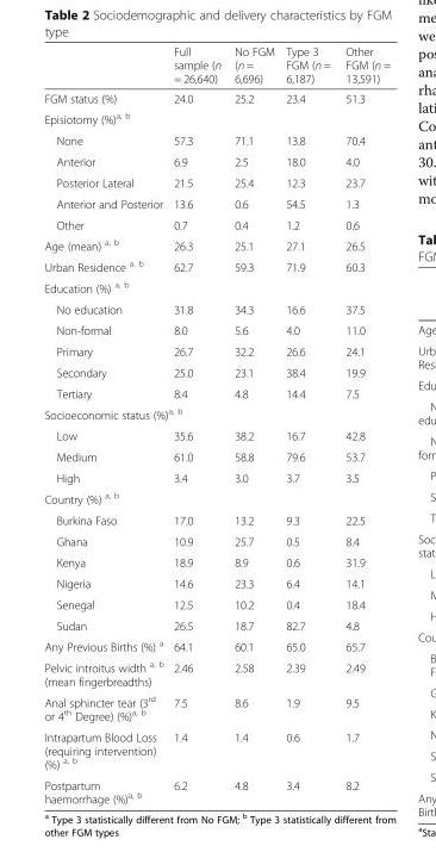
<table><thead><tr><td></td><td>Full sample (n = 26,640)</td><td>No FGM (n = 6,696)</td><td>Type 3 FGM (n = 6,187)</td><td>Other FGM (n = 13,591)</td></tr></thead><tbody><tr><td>FGM status (%)</td><td>24.0</td><td>25.2</td><td>23.4</td><td>51.3</td></tr><tr><td colspan="5">Episiotomy (%)<sup>a, b</sup></td></tr><tr><td>None</td><td>57.3</td><td>71.1</td><td>13.8</td><td>70.4</td></tr><tr><td>Anterior</td><td>6.9</td><td>2.5</td><td>18.0</td><td>4.0</td></tr><tr><td>Posterior Lateral</td><td>21.5</td><td>25.4</td><td>12.3</td><td>23.7</td></tr><tr><td>Anterior and Posterior</td><td>13.6</td><td>0.6</td><td>54.5</td><td>1.3</td></tr><tr><td>Other</td><td>0.7</td><td>0.4</td><td>1.2</td><td>0.6</td></tr><tr><td>Age (mean) <sup>a, b</sup></td><td>26.3</td><td>25.1</td><td>27.1</td><td>26.5</td></tr><tr><td>Urban Residence <sup>a, b</sup></td><td>62.7</td><td>59.3</td><td>71.9</td><td>60.3</td></tr><tr><td colspan="5">Education (%) <sup>a, b</sup></td></tr><tr><td>No education</td><td>31.8</td><td>34.3</td><td>16.6</td><td>37.5</td></tr><tr><td>Non-formal</td><td>8.0</td><td>5.6</td><td>4.0</td><td>11.0</td></tr><tr><td>Primary</td><td>26.7</td><td>32.2</td><td>26.6</td><td>24.1</td></tr><tr><td>Secondary</td><td>25.0</td><td>23.1</td><td>38.4</td><td>19.9</td></tr><tr><td>Tertiary</td><td>8.4</td><td>4.8</td><td>14.4</td><td>7.5</td></tr><tr><td colspan="5">Socioeconomic status (%)<sup>a, b</sup></td></tr><tr><td>Low</td><td>35.6</td><td>38.2</td><td>16.7</td><td>42.8</td></tr><tr><td>Medium</td><td>61.0</td><td>58.8</td><td>79.6</td><td>53.7</td></tr><tr><td>High</td><td>3.4</td><td>3.0</td><td>3.7</td><td>3.5</td></tr><tr><td colspan="5">Country (%) <sup>a, b</sup></td></tr><tr><td>Burkina Faso</td><td>17.0</td><td>13.2</td><td>9.3</td><td>22.5</td></tr><tr><td>Ghana</td><td>10.9</td><td>25.7</td><td>0.5</td><td>8.4</td></tr><tr><td>Kenya</td><td>18.9</td><td>8.9</td><td>0.6</td><td>31.9</td></tr><tr><td>Nigeria</td><td>14.6</td><td>23.3</td><td>6.4</td><td>14.1</td></tr><tr><td>Senegal</td><td>12.5</td><td>10.2</td><td>0.4</td><td>18.4</td></tr><tr><td>Sudan</td><td>26.5</td><td>18.7</td><td>82.7</td><td>4.8</td></tr><tr><td>Any Previous Births (%) <sup>a</sup></td><td>64.1</td><td>60.1</td><td>65.0</td><td>65.7</td></tr><tr><td>Pelvic introitus width <sup>a, b</sup> (mean fingerbreadths)</td><td>2.46</td><td>2.58</td><td>2.39</td><td>2.49</td></tr><tr><td>Anal sphincter tear (3<sup>rd</sup> or 4<sup>th</sup> Degree) (%)<sup>a, b</sup></td><td>7.5</td><td>8.6</td><td>1.9</td><td>9.5</td></tr><tr><td>Intrapartum Blood Loss (requiring intervention) (%) <sup>a, b</sup></td><td>1.4</td><td>1.4</td><td>0.6</td><td>1.7</td></tr><tr><td>Postpartum haemorrhage (%)<sup>a, b</sup></td><td>6.2</td><td>4.8</td><td>3.4</td><td>8.2</td></tr></tbody></table>